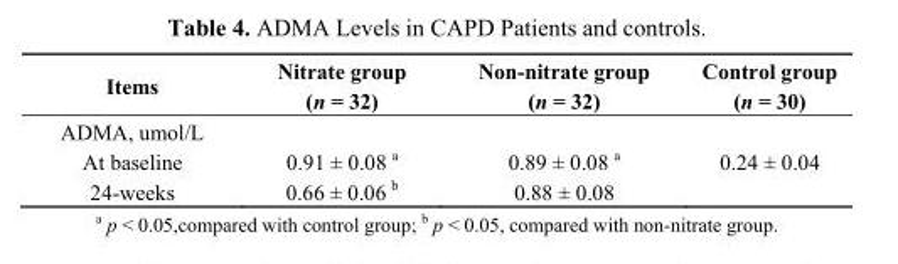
<table><thead><tr><td>Items</td><td>Nitrate group (n = 32)</td><td>Non-nitrate group (n = 32)</td><td>Control group (n = 30)</td></tr></thead><tbody><tr><td colspan="4">ADMA, umol/L</td></tr><tr><td>At baseline</td><td>0.91 ± 0.08 a</td><td>0.89 ± 0.08 a</td><td>0.24 ± 0.04</td></tr><tr><td>24-weeks</td><td>0.66 ± 0.06 b</td><td>0.88 ± 0.08</td><td></td></tr></tbody></table>